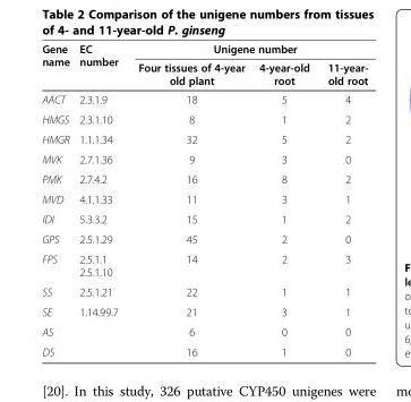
<table><thead><tr><td rowspan="2">Gene name</td><td rowspan="2">EC number</td><td colspan="3">Unigene number</td></tr><tr><td>Four tissues of 4-year old plant</td><td>4-year-old root</td><td>11-year- old root</td></tr></thead><tbody><tr><td>AACT</td><td>2.3.1.9</td><td>18</td><td>5</td><td>4</td></tr><tr><td>HMGS</td><td>2.3.1.10</td><td>8</td><td>1</td><td>2</td></tr><tr><td>HMGR</td><td>1.1.1.34</td><td>32</td><td>5</td><td>2</td></tr><tr><td>MVK</td><td>2.7.1.36</td><td>9</td><td>3</td><td>0</td></tr><tr><td>PMK</td><td>2.7.4.2</td><td>16</td><td>8</td><td>2</td></tr><tr><td>MVD</td><td>4.1.1.33</td><td>11</td><td>3</td><td>1</td></tr><tr><td>IDI</td><td>5.3.3.2</td><td>15</td><td>1</td><td>2</td></tr><tr><td>GPS</td><td>2.5.1.29</td><td>45</td><td>2</td><td>0</td></tr><tr><td>FPS</td><td>2.5.1.1 2.5.1.10</td><td>14</td><td>2</td><td>3</td></tr><tr><td>SS</td><td>2.5.1.21</td><td>22</td><td>1</td><td>1</td></tr><tr><td>SE</td><td>1.14.99.7</td><td>21</td><td>3</td><td>1</td></tr><tr><td>AS</td><td></td><td>6</td><td>0</td><td>0</td></tr><tr><td>DS</td><td></td><td>16</td><td>1</td><td>0</td></tr></tbody></table>